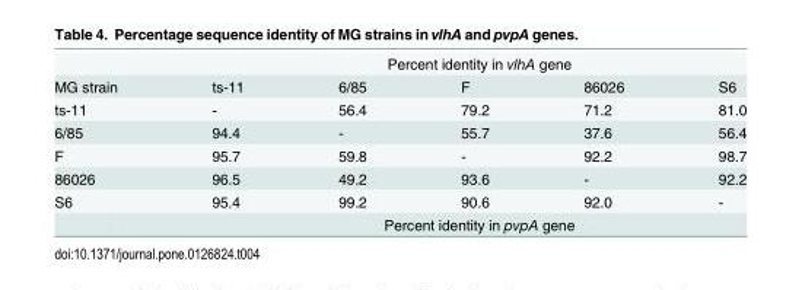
<table><thead><tr><td rowspan="2">MG strain</td><td colspan="5">Percent identity in vlhA gene</td></tr><tr><td>ts-11</td><td>6/85</td><td>F</td><td>86026</td><td>S6</td></tr></thead><tbody><tr><td>ts-11</td><td>-</td><td>56.4</td><td>79.2</td><td>71.2</td><td>81.0</td></tr><tr><td>6/85</td><td>94.4</td><td>-</td><td>55.7</td><td>37.6</td><td>56.4</td></tr><tr><td>F</td><td>95.7</td><td>59.8</td><td>-</td><td>92.2</td><td>98.7</td></tr><tr><td>86026</td><td>96.5</td><td>49.2</td><td>93.6</td><td>-</td><td>92.2</td></tr><tr><td rowspan="2">S6</td><td>95.4</td><td>99.2</td><td>90.6</td><td>92.0</td><td>-</td></tr><tr><td colspan="5">Percent identity in pvpA gene</td></tr></tbody></table>